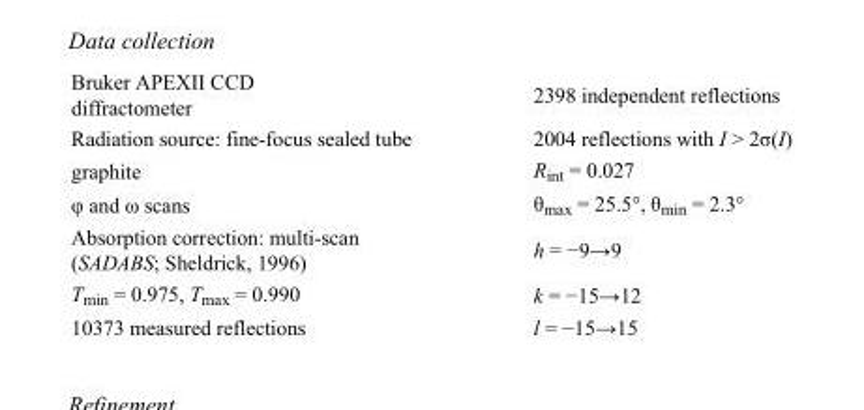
<table><tbody><tr><td>Bruker APEXII CCD diffractometer</td><td>2398 independent reflections</td></tr><tr><td>Radiation source: fine-focus sealed tube</td><td>2004 reflections with I &gt; 2σ(I)</td></tr><tr><td>graphite</td><td>R<sub>int</sub> = 0.027</td></tr><tr><td>φ and ω scans</td><td>θ<sub>max</sub> = 25.5°, θ<sub>min</sub> = 2.3°</td></tr><tr><td>Absorption correction: multi-scan (SADABS; Sheldrick, 1996)</td><td>h = −9→9</td></tr><tr><td>T<sub>min</sub> = 0.975, T<sub>max</sub> = 0.990</td><td>k = −15→12</td></tr><tr><td>10373 measured reflections</td><td>l = −15→15</td></tr></tbody></table>